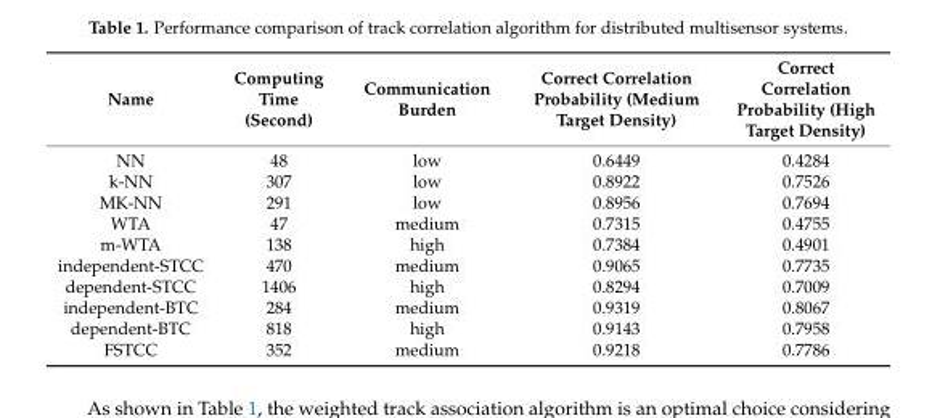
<table><thead><tr><td>Name</td><td>Computing Time (Second)</td><td>Communication Burden</td><td>Correct Correlation Probability (Medium Target Density)</td><td>Correct Correlation Probability (High Target Density)</td></tr></thead><tbody><tr><td>NN</td><td>48</td><td>low</td><td>0.6449</td><td>0.4284</td></tr><tr><td>k-NN</td><td>307</td><td>low</td><td>0.8922</td><td>0.7526</td></tr><tr><td>MK-NN</td><td>291</td><td>low</td><td>0.8956</td><td>0.7694</td></tr><tr><td>WTA</td><td>47</td><td>medium</td><td>0.7315</td><td>0.4755</td></tr><tr><td>m-WTA</td><td>138</td><td>high</td><td>0.7384</td><td>0.4901</td></tr><tr><td>independent-STCC</td><td>470</td><td>medium</td><td>0.9065</td><td>0.7735</td></tr><tr><td>dependent-STCC</td><td>1406</td><td>high</td><td>0.8294</td><td>0.7009</td></tr><tr><td>independent-BTC</td><td>284</td><td>medium</td><td>0.9319</td><td>0.8067</td></tr><tr><td>dependent-BTC</td><td>818</td><td>high</td><td>0.9143</td><td>0.7958</td></tr><tr><td>FSTCC</td><td>352</td><td>medium</td><td>0.9218</td><td>0.7786</td></tr></tbody></table>